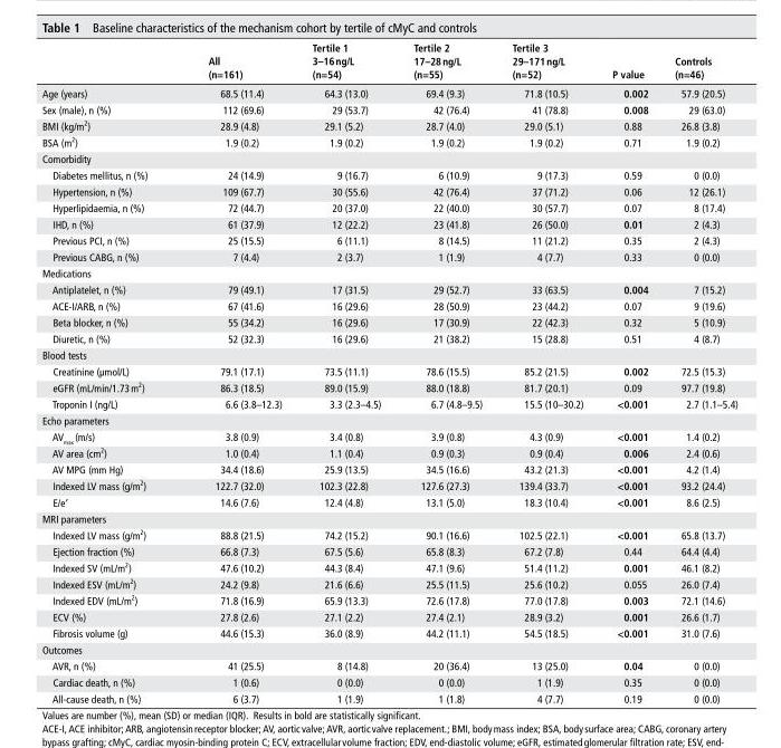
<table><thead><tr><td></td><td>All (n=161)</td><td>Tertile 1 3–16 ng/l (n=54)</td><td>Tertile 2 17–28 ng/l (n=55)</td><td>Tertile 3 29–171 ng/l (n=52)</td><td>P value</td><td>Controls (n=46)</td></tr></thead><tbody><tr><td>Age (years)</td><td>68.5 (11.4)</td><td>64.3 (13.0)</td><td>69.4 (9.3)</td><td>71.8 (10.5)</td><td>0.002</td><td>57.9 (20.5)</td></tr><tr><td>Sex (male), n (%)</td><td>112 (69.6)</td><td>29 (53.7)</td><td>42 (76.4)</td><td>41 (78.8)</td><td>0.008</td><td>29 (63.0)</td></tr><tr><td>BMI (kg/m<sup>2</sup>)</td><td>28.9 (4.8)</td><td>29.1 (5.2)</td><td>28.7 (4.0)</td><td>29.0 (5.1)</td><td>0.88</td><td>26.8 (3.8)</td></tr><tr><td>BSA (m<sup>2</sup>)</td><td>1.9 (0.2)</td><td>1.9 (0.2)</td><td>1.9 (0.2)</td><td>1.9 (0.2)</td><td>0.71</td><td>1.9 (0.2)</td></tr><tr><td colspan="7">Comorbidity</td></tr><tr><td>Diabetes mellitus, n (%)</td><td>24 (14.9)</td><td>9 (16.7)</td><td>6 (10.9)</td><td>9 (17.3)</td><td>0.59</td><td>0 (0.0)</td></tr><tr><td>Hypertension, n (%)</td><td>109 (67.7)</td><td>30 (55.6)</td><td>42 (76.4)</td><td>37 (71.2)</td><td>0.06</td><td>12 (26.1)</td></tr><tr><td>Hyperlipidaemia, n (%)</td><td>72 (44.7)</td><td>20 (37.0)</td><td>22 (40.0)</td><td>30 (57.7)</td><td>0.07</td><td>8 (17.4)</td></tr><tr><td>IHD, n (%)</td><td>61 (37.9)</td><td>12 (22.2)</td><td>23 (41.8)</td><td>26 (50.0)</td><td>0.01</td><td>2 (4.3)</td></tr><tr><td>Previous PCI, n (%)</td><td>25 (15.5)</td><td>6 (11.1)</td><td>8 (14.5)</td><td>11 (21.2)</td><td>0.35</td><td>2 (4.3)</td></tr><tr><td>Previous CABG, n (%)</td><td>7 (4.4)</td><td>2 (3.7)</td><td>1 (1.9)</td><td>4 (7.7)</td><td>0.33</td><td>0 (0.0)</td></tr><tr><td colspan="7">Medications</td></tr><tr><td>Antiplatelet, n (%)</td><td>79 (49.1)</td><td>17 (31.5)</td><td>29 (52.7)</td><td>33 (63.5)</td><td>0.004</td><td>7 (15.2)</td></tr><tr><td>ACE-I/ARB, n (%)</td><td>67 (41.6)</td><td>16 (29.6)</td><td>28 (50.9)</td><td>23 (44.2)</td><td>0.07</td><td>9 (19.6)</td></tr><tr><td>Beta blocker, n (%)</td><td>55 (34.2)</td><td>16 (29.6)</td><td>17 (30.9)</td><td>22 (42.3)</td><td>0.32</td><td>5 (10.9)</td></tr><tr><td>Diuretic, n (%)</td><td>52 (32.3)</td><td>16 (29.6)</td><td>21 (38.2)</td><td>15 (28.8)</td><td>0.51</td><td>4 (8.7)</td></tr><tr><td colspan="7">Blood tests</td></tr><tr><td>Creatinine (μmol/L)</td><td>79.1 (17.1)</td><td>73.5 (11.1)</td><td>78.6 (15.5)</td><td>85.2 (21.5)</td><td>0.002</td><td>72.5 (15.3)</td></tr><tr><td>eGFR (mL/min/1.73 m<sup>2</sup>)</td><td>86.3 (18.5)</td><td>89.0 (15.9)</td><td>88.0 (18.8)</td><td>81.7 (20.1)</td><td>0.09</td><td>97.7 (19.8)</td></tr><tr><td>Troponin I (ng/L)</td><td>6.6 (3.8–12.3)</td><td>3.3 (2.3–4.5)</td><td>6.7 (4.8–9.5)</td><td>15.5 (10–30.2)</td><td>&lt;0.001</td><td>2.7 (1.1–5.4)</td></tr><tr><td colspan="7">Echo parameters</td></tr><tr><td>AV<sub>max</sub> (m/s)</td><td>3.8 (0.9)</td><td>3.4 (0.8)</td><td>3.9 (0.8)</td><td>4.3 (0.9)</td><td>&lt;0.001</td><td>1.4 (0.2)</td></tr><tr><td>AV area (cm<sup>2</sup>)</td><td>1.0 (0.4)</td><td>1.1 (0.4)</td><td>0.9 (0.3)</td><td>0.9 (0.4)</td><td>0.006</td><td>2.4 (0.6)</td></tr><tr><td>AV MPG (mm Hg)</td><td>34.4 (18.6)</td><td>25.9 (13.5)</td><td>34.5 (16.6)</td><td>43.2 (21.3)</td><td>&lt;0.001</td><td>4.2 (1.4)</td></tr><tr><td>Indexed LV mass (g/m<sup>2</sup>)</td><td>122.7 (32.0)</td><td>102.3 (22.8)</td><td>127.6 (27.3)</td><td>139.4 (33.7)</td><td>&lt;0.001</td><td>93.2 (24.4)</td></tr><tr><td>E/e′</td><td>14.6 (7.6)</td><td>12.4 (4.8)</td><td>13.1 (5.0)</td><td>18.3 (10.4)</td><td>&lt;0.001</td><td>8.6 (2.5)</td></tr><tr><td colspan="7">MRI parameters</td></tr><tr><td>Indexed LV mass (g/m<sup>2</sup>)</td><td>88.8 (21.5)</td><td>74.2 (15.2)</td><td>90.1 (16.6)</td><td>102.5 (22.1)</td><td>&lt;0.001</td><td>65.8 (13.7)</td></tr><tr><td>Ejection fraction (%)</td><td>66.8 (7.3)</td><td>67.5 (5.6)</td><td>65.8 (8.3)</td><td>67.2 (7.8)</td><td>0.44</td><td>64.4 (4.4)</td></tr><tr><td>Indexed SV (mL/m<sup>2</sup>)</td><td>47.6 (10.2)</td><td>44.3 (8.4)</td><td>47.1 (9.6)</td><td>51.4 (11.2)</td><td>0.001</td><td>46.1 (8.2)</td></tr><tr><td>Indexed ESV (mL/m<sup>2</sup>)</td><td>24.2 (9.8)</td><td>21.6 (6.6)</td><td>25.5 (11.5)</td><td>25.6 (10.2)</td><td>0.055</td><td>26.0 (7.4)</td></tr><tr><td>Indexed EDV (mL/m<sup>2</sup>)</td><td>71.8 (16.9)</td><td>65.9 (13.3)</td><td>72.6 (17.8)</td><td>77.0 (17.8)</td><td>0.003</td><td>72.1 (14.6)</td></tr><tr><td>ECV (%)</td><td>27.8 (2.6)</td><td>27.1 (2.2)</td><td>27.4 (2.1)</td><td>28.9 (3.2)</td><td>0.001</td><td>26.6 (1.7)</td></tr><tr><td>Fibrosis volume (g)</td><td>44.6 (15.3)</td><td>36.0 (8.9)</td><td>44.2 (11.1)</td><td>54.5 (18.5)</td><td>&lt;0.001</td><td>31.0 (7.6)</td></tr><tr><td colspan="7">Outcomes</td></tr><tr><td>AVR, n (%)</td><td>41 (25.5)</td><td>8 (14.8)</td><td>20 (36.4)</td><td>13 (25.0)</td><td>0.04</td><td>0 (0.0)</td></tr><tr><td>Cardiac death, n (%)</td><td>1 (0.6)</td><td>0 (0.0)</td><td>0 (0.0)</td><td>1 (1.9)</td><td>0.35</td><td>0 (0.0)</td></tr><tr><td>All-cause death, n (%)</td><td>6 (3.7)</td><td>1 (1.9)</td><td>1 (1.8)</td><td>4 (7.7)</td><td>0.19</td><td>0 (0.0)</td></tr></tbody></table>